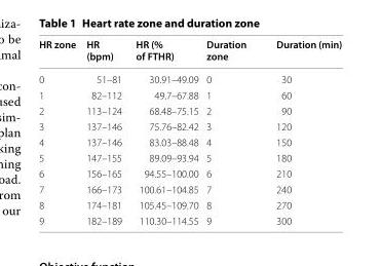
<table><thead><tr><td>HR zone</td><td>HR (bpm)</td><td>HR (% of FTHR)</td><td>Duration zone</td><td>Duration (min)</td></tr></thead><tbody><tr><td>0</td><td>51–81</td><td>30.91–49.09</td><td>0</td><td>30</td></tr><tr><td>1</td><td>82–112</td><td>49.7–67.88</td><td>1</td><td>60</td></tr><tr><td>2</td><td>113–124</td><td>68.48–75.15</td><td>2</td><td>90</td></tr><tr><td>3</td><td>137–146</td><td>75.76–82.42</td><td>3</td><td>120</td></tr><tr><td>4</td><td>137–146</td><td>83.03–88.48</td><td>4</td><td>150</td></tr><tr><td>5</td><td>147–155</td><td>89.09–93.94</td><td>5</td><td>180</td></tr><tr><td>6</td><td>156–165</td><td>94.55–100.00</td><td>6</td><td>210</td></tr><tr><td>7</td><td>166–173</td><td>100.61–104.85</td><td>7</td><td>240</td></tr><tr><td>8</td><td>174–181</td><td>105.45–109.70</td><td>8</td><td>270</td></tr><tr><td>9</td><td>182–189</td><td>110.30–114.55</td><td>9</td><td>300</td></tr></tbody></table>